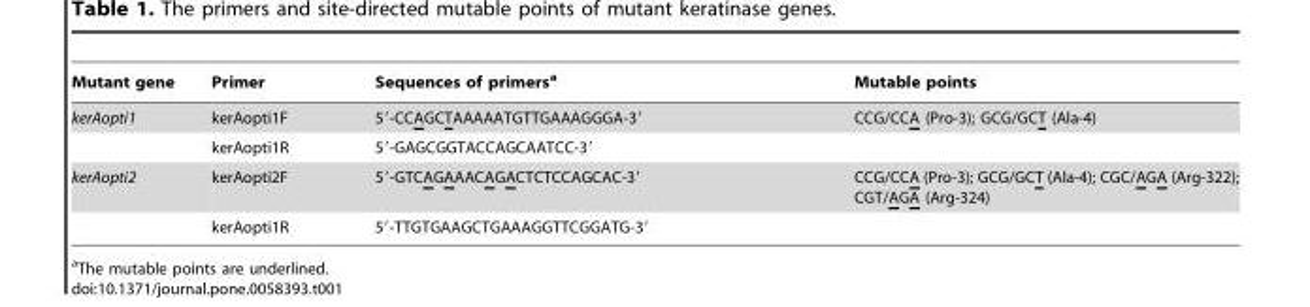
<table><thead><tr><td>Mutant gene</td><td>Primer</td><td>Sequences of primers<sup>a</sup></td><td>Mutable points</td></tr></thead><tbody><tr><td rowspan="2">kerAopti1</td><td>kerAopti1F</td><td>5′-CCAGCTAAAAATGTTGAAAGGGA-3′</td><td>CCG/CCA (Pro-3); GCG/GCT (Ala-4)</td></tr><tr><td>kerAopti1R</td><td>5′-GAGCGGTACCAGCAATCC-3′</td><td></td></tr><tr><td rowspan="2">kerAopti2</td><td>kerAopti2F</td><td>5′-GTCAGAAACAGACTCTCCAGCAC-3′</td><td>CCG/CCA (Pro-3); GCG/GCT (Ala-4); CGC/AGA (Arg-322); CGT/AGA (Arg-324)</td></tr><tr><td>kerAopti1R</td><td>5′-TTGTGAAGCTGAAAGGTTCGGATG-3′</td><td></td></tr></tbody></table>